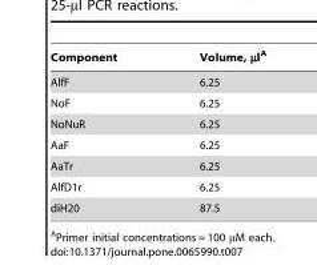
<table><thead><tr><td>Component</td><td>Volume, µl<sup>A</sup></td></tr></thead><tbody><tr><td>AlfF</td><td>6.25</td></tr><tr><td>NoF</td><td>6.25</td></tr><tr><td>NoNuR</td><td>6.25</td></tr><tr><td>AaF</td><td>6.25</td></tr><tr><td>AaTr</td><td>6.25</td></tr><tr><td>AlfD1r</td><td>6.25</td></tr><tr><td>diH20</td><td>87.5</td></tr></tbody></table>